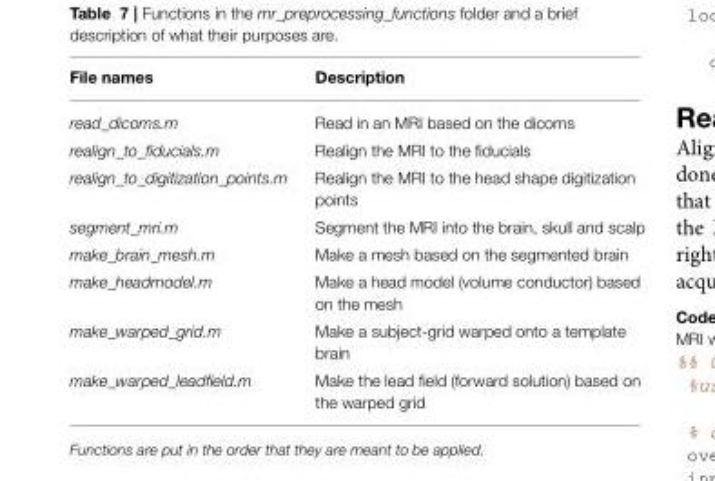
<table><thead><tr><td>File names</td><td>Description</td></tr></thead><tbody><tr><td>read_dicoms.m</td><td>Read in an MRI based on the dicoms</td></tr><tr><td>realign_to_fiducials.m</td><td>Realign the MRI to the fiducials</td></tr><tr><td>realign_to_digitization_points.m</td><td>Realign the MRI to the head shape digitization points</td></tr><tr><td>segment_mri.m</td><td>Segment the MRI into the brain, skull and scalp</td></tr><tr><td>make_brain_mesh.m</td><td>Make a mesh based on the segmented brain</td></tr><tr><td>make_headmodel.m</td><td>Make a head model (volume conductor) based on the mesh</td></tr><tr><td>make_warped_grid.m</td><td>Make a subject-grid warped onto a template brain</td></tr><tr><td>make_warped_leadfield.m</td><td>Make the lead field (forward solution) based on the warped grid</td></tr></tbody></table>